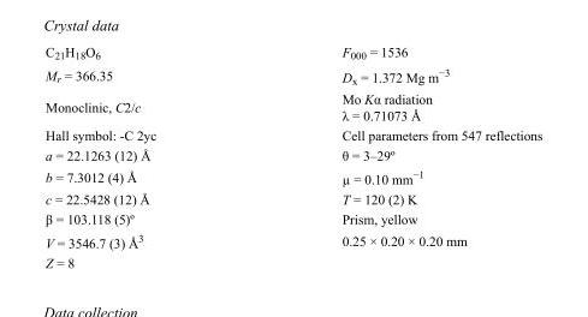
<table><tbody><tr><td>C<sub>21</sub>H<sub>18</sub>O<sub>6</sub></td><td>F<sub>000</sub> = 1536</td></tr><tr><td>M<sub>r</sub> = 366.35</td><td>D<sub>x</sub> = 1.372 Mg m<sup>−3</sup></td></tr><tr><td>Monoclinic, C2/c</td><td>Mo Kα radiation λ = 0.71073 Å</td></tr><tr><td>Hall symbol: -C 2yc</td><td>Cell parameters from 547 reflections</td></tr><tr><td>a = 22.1263 (12) Å</td><td>θ = 3–29º</td></tr><tr><td>b = 7.3012 (4) Å</td><td>µ = 0.10 mm<sup>−1</sup></td></tr><tr><td>c = 22.5428 (12) Å</td><td>T = 120 (2) K</td></tr><tr><td>β = 103.118 (5)º</td><td>Prism, yellow</td></tr><tr><td>V = 3546.7 (3) Å<sup>3</sup></td><td>0.25 × 0.20 × 0.20 mm</td></tr><tr><td>Z = 8</td><td></td></tr></tbody></table>